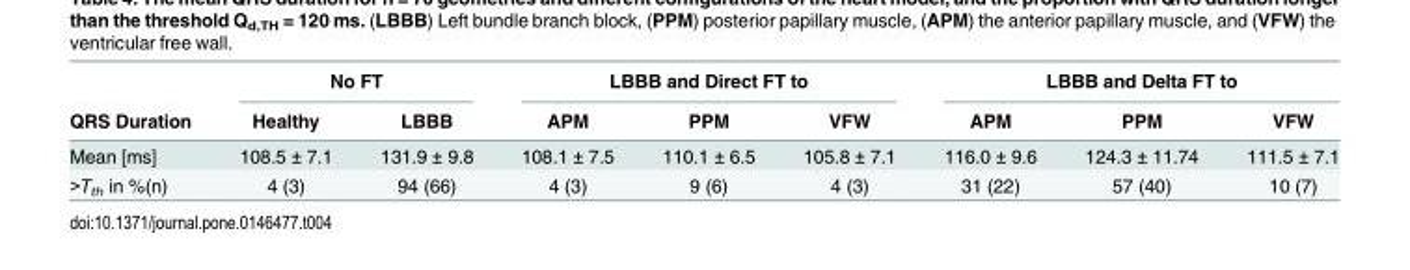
<table><thead><tr><td rowspan="2">QRS Duration</td><td colspan="2">No FT</td><td colspan="3">LBBB and Direct FT to</td><td colspan="3">LBBB and Delta FT to</td></tr><tr><td>Healthy</td><td>LBBB</td><td>APM</td><td>PPM</td><td>VFW</td><td>APM</td><td>PPM</td><td>VFW</td></tr></thead><tbody><tr><td>Mean [ms]</td><td>108.5 ± 7.1</td><td>131.9 ± 9.8</td><td>108.1 ± 7.5</td><td>110.1 ± 6.5</td><td>105.8 ± 7.1</td><td>116.0 ± 9.6</td><td>124.3 ± 11.74</td><td>111.5 ± 7.1</td></tr><tr><td>&gt;T<sub>th</sub> in %(n)</td><td>4 (3)</td><td>94 (66)</td><td>4 (3)</td><td>9 (6)</td><td>4 (3)</td><td>31 (22)</td><td>57 (40)</td><td>10 (7)</td></tr></tbody></table>